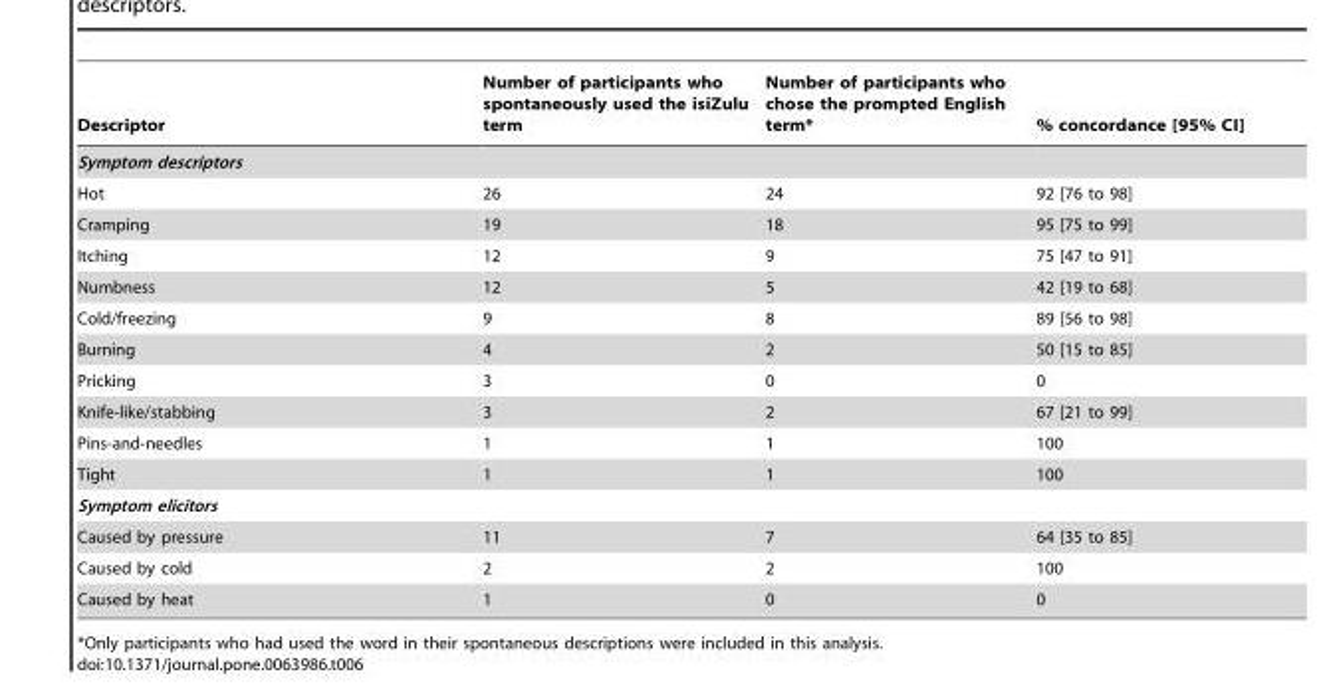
<table><thead><tr><td>Descriptor</td><td>Number of participants who spontaneously used the isiZulu term</td><td>Number of participants who chose the prompted English term*</td><td>% concordance [95% CI]</td></tr></thead><tbody><tr><td colspan="4">Symptom descriptors</td></tr><tr><td>Hot</td><td>26</td><td>24</td><td>92 [76 to 98]</td></tr><tr><td>Cramping</td><td>19</td><td>18</td><td>95 [75 to 99]</td></tr><tr><td>Itching</td><td>12</td><td>9</td><td>75 [47 to 91]</td></tr><tr><td>Numbness</td><td>12</td><td>5</td><td>42 [19 to 68]</td></tr><tr><td>Cold/freezing</td><td>9</td><td>8</td><td>89 [56 to 98]</td></tr><tr><td>Burning</td><td>4</td><td>2</td><td>50 [15 to 85]</td></tr><tr><td>Pricking</td><td>3</td><td>0</td><td>0</td></tr><tr><td>Knife-like/stabbing</td><td>3</td><td>2</td><td>67 [21 to 99]</td></tr><tr><td>Pins-and-needles</td><td>1</td><td>1</td><td>100</td></tr><tr><td>Tight</td><td>1</td><td>1</td><td>100</td></tr><tr><td colspan="4">Symptom elicitors</td></tr><tr><td>Caused by pressure</td><td>11</td><td>7</td><td>64 [35 to 85]</td></tr><tr><td>Caused by cold</td><td>2</td><td>2</td><td>100</td></tr><tr><td>Caused by heat</td><td>1</td><td>0</td><td>0</td></tr></tbody></table>